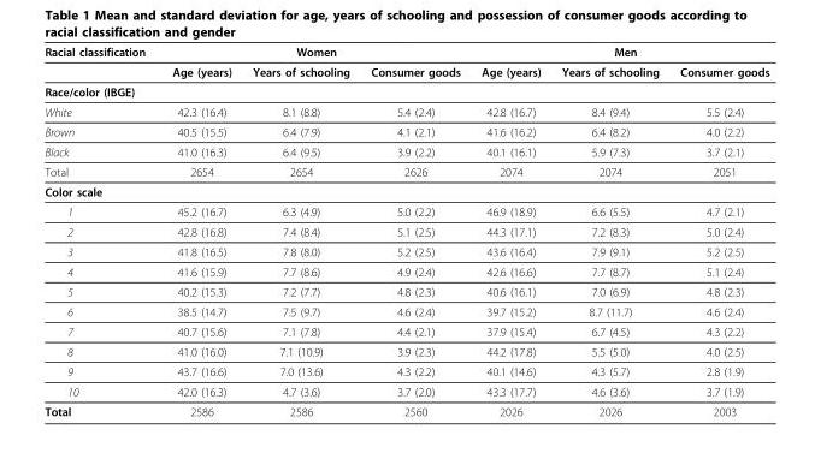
<table><thead><tr><td rowspan="2">Racial classification</td><td colspan="3">Women</td><td colspan="3">Men</td></tr><tr><td>Age (years)</td><td>Years of schooling</td><td>Consumer goods</td><td>Age (years)</td><td>Years of schooling</td><td>Consumer goods</td></tr></thead><tbody><tr><td colspan="7">Race/color (IBGE)</td></tr><tr><td>White</td><td>42.3 (16.4)</td><td>8.1 (8.8)</td><td>5.4 (2.4)</td><td>42.8 (16.7)</td><td>8.4 (9.4)</td><td>5.5 (2.4)</td></tr><tr><td>Brown</td><td>40.5 (15.5)</td><td>6.4 (7.9)</td><td>4.1 (2.1)</td><td>41.6 (16.2)</td><td>6.4 (8.2)</td><td>4.0 (2.2)</td></tr><tr><td>Black</td><td>41.0 (16.3)</td><td>6.4 (9.5)</td><td>3.9 (2.2)</td><td>40.1 (16.1)</td><td>5.9 (7.3)</td><td>3.7 (2.1)</td></tr><tr><td>Total</td><td>2654</td><td>2654</td><td>2626</td><td>2074</td><td>2074</td><td>2051</td></tr><tr><td colspan="7">Color scale</td></tr><tr><td>1</td><td>45.2 (16.7)</td><td>6.3 (4.9)</td><td>5.0 (2.2)</td><td>46.9 (18.9)</td><td>6.6 (5.5)</td><td>4.7 (2.1)</td></tr><tr><td>2</td><td>42.8 (16.8)</td><td>7.4 (8.4)</td><td>5.1 (2.5)</td><td>44.3 (17.1)</td><td>7.2 (8.3)</td><td>5.0 (2.4)</td></tr><tr><td>3</td><td>41.8 (16.5)</td><td>7.8 (8.0)</td><td>5.2 (2.5)</td><td>43.6 (16.4)</td><td>7.9 (9.1)</td><td>5.2 (2.5)</td></tr><tr><td>4</td><td>41.6 (15.9)</td><td>7.7 (8.6)</td><td>4.9 (2.4)</td><td>42.6 (16.6)</td><td>7.7 (8.7)</td><td>5.1 (2.4)</td></tr><tr><td>5</td><td>40.2 (15.3)</td><td>7.2 (7.7)</td><td>4.8 (2.3)</td><td>40.6 (16.1)</td><td>7.0 (6.9)</td><td>4.8 (2.3)</td></tr><tr><td>6</td><td>38.5 (14.7)</td><td>7.5 (9.7)</td><td>4.6 (2.4)</td><td>39.7 (15.2)</td><td>8.7 (11.7)</td><td>4.6 (2.4)</td></tr><tr><td>7</td><td>40.7 (15.6)</td><td>7.1 (7.8)</td><td>4.4 (2.1)</td><td>37.9 (15.4)</td><td>6.7 (4.5)</td><td>4.3 (2.2)</td></tr><tr><td>8</td><td>41.0 (16.0)</td><td>7.1 (10.9)</td><td>3.9 (2.3)</td><td>44.2 (17.8)</td><td>5.5 (5.0)</td><td>4.0 (2.5)</td></tr><tr><td>9</td><td>43.7 (16.6)</td><td>7.0 (13.6)</td><td>4.3 (2.2)</td><td>40.1 (14.6)</td><td>4.3 (5.7)</td><td>2.8 (1.9)</td></tr><tr><td>10</td><td>42.0 (16.3)</td><td>4.7 (3.6)</td><td>3.7 (2.0)</td><td>43.3 (17.7)</td><td>4.6 (3.6)</td><td>3.7 (1.9)</td></tr><tr><td>Total</td><td>2586</td><td>2586</td><td>2560</td><td>2026</td><td>2026</td><td>2003</td></tr></tbody></table>